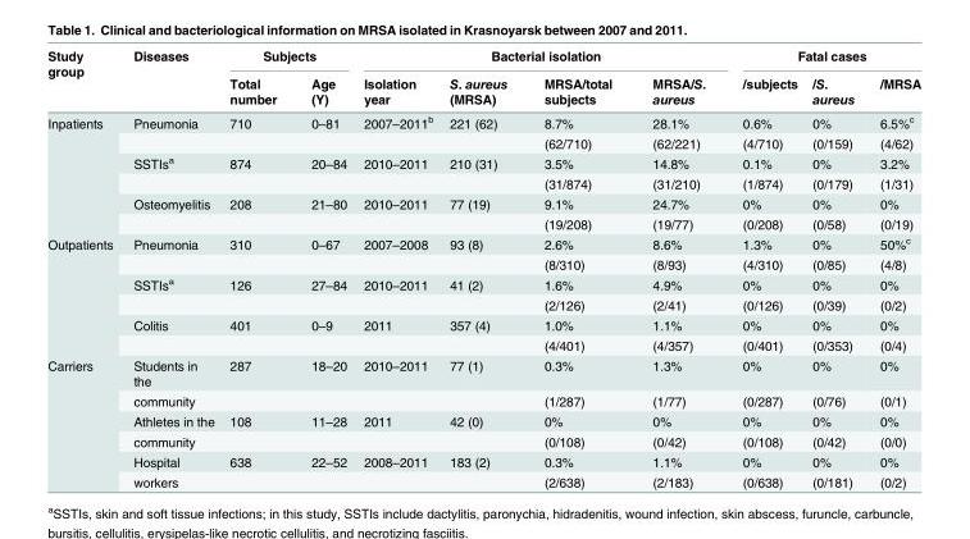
<table><thead><tr><td rowspan="2">Study group</td><td rowspan="2">Diseases</td><td colspan="2">Subjects</td><td colspan="4">Bacterial isolation</td><td colspan="3">Fatal cases</td></tr><tr><td>Total number</td><td>Age (Y)</td><td>Isolation year</td><td>S. aureus (MRSA)</td><td>MRSA/total subjects</td><td>MRSA/S. aureus</td><td>/subjects</td><td>/S. aureus</td><td>/MRSA</td></tr></thead><tbody><tr><td rowspan="6">Inpatients</td><td>Pneumonia</td><td>710</td><td>0–81</td><td>2007–2011<sup>b</sup></td><td>221 (62)</td><td>8.7%</td><td>28.1%</td><td>0.6%</td><td>0%</td><td>6.5%<sup>c</sup></td></tr><tr><td></td><td></td><td></td><td></td><td></td><td>(62/710)</td><td>(62/221)</td><td>(4/710)</td><td>(0/159)</td><td>(4/62)</td></tr><tr><td>SSTIs<sup>a</sup></td><td>874</td><td>20–84</td><td>2010–2011</td><td>210 (31)</td><td>3.5%</td><td>14.8%</td><td>0.1%</td><td>0%</td><td>3.2%</td></tr><tr><td></td><td></td><td></td><td></td><td></td><td>(31/874)</td><td>(31/210)</td><td>(1/874)</td><td>(0/179)</td><td>(1/31)</td></tr><tr><td>Osteomyelitis</td><td>208</td><td>21–80</td><td>2010–2011</td><td>77 (19)</td><td>9.1%</td><td>24.7%</td><td>0%</td><td>0%</td><td>0%</td></tr><tr><td></td><td></td><td></td><td></td><td></td><td>(19/208)</td><td>(19/77)</td><td>(0/208)</td><td>(0/58)</td><td>(0/19)</td></tr><tr><td rowspan="6">Outpatients</td><td>Pneumonia</td><td>310</td><td>0–67</td><td>2007–2008</td><td>93 (8)</td><td>2.6%</td><td>8.6%</td><td>1.3%</td><td>0%</td><td>50%<sup>c</sup></td></tr><tr><td></td><td></td><td></td><td></td><td></td><td>(8/310)</td><td>(8/93)</td><td>(4/310)</td><td>(0/85)</td><td>(4/8)</td></tr><tr><td>SSTIs<sup>a</sup></td><td>126</td><td>27–84</td><td>2010–2011</td><td>41 (2)</td><td>1.6%</td><td>4.9%</td><td>0%</td><td>0%</td><td>0%</td></tr><tr><td></td><td></td><td></td><td></td><td></td><td>(2/126)</td><td>(2/41)</td><td>(0/126)</td><td>(0/39)</td><td>(0/2)</td></tr><tr><td>Colitis</td><td>401</td><td>0–9</td><td>2011</td><td>357 (4)</td><td>1.0%</td><td>1.1%</td><td>0%</td><td>0%</td><td>0%</td></tr><tr><td></td><td></td><td></td><td></td><td></td><td>(4/401)</td><td>(4/357)</td><td>(0/401)</td><td>(0/353)</td><td>(0/4)</td></tr><tr><td rowspan="6">Carriers</td><td>Students in the</td><td>287</td><td>18–20</td><td>2010–2011</td><td>77 (1)</td><td>0.3%</td><td>1.3%</td><td>0%</td><td>0%</td><td>0%</td></tr><tr><td>community</td><td></td><td></td><td></td><td></td><td>(1/287)</td><td>(1/77)</td><td>(0/287)</td><td>(0/76)</td><td>(0/1)</td></tr><tr><td>Athletes in the</td><td>108</td><td>11–28</td><td>2011</td><td>42 (0)</td><td>0%</td><td>0%</td><td>0%</td><td>0%</td><td>0%</td></tr><tr><td>community</td><td></td><td></td><td></td><td></td><td>(0/108)</td><td>(0/42)</td><td>(0/108)</td><td>(0/42)</td><td>(0/0)</td></tr><tr><td>Hospital</td><td>638</td><td>22–52</td><td>2008–2011</td><td>183 (2)</td><td>0.3%</td><td>1.1%</td><td>0%</td><td>0%</td><td>0%</td></tr><tr><td>workers</td><td></td><td></td><td></td><td></td><td>(2/638)</td><td>(2/183)</td><td>(0/638)</td><td>(0/181)</td><td>(0/2)</td></tr></tbody></table>